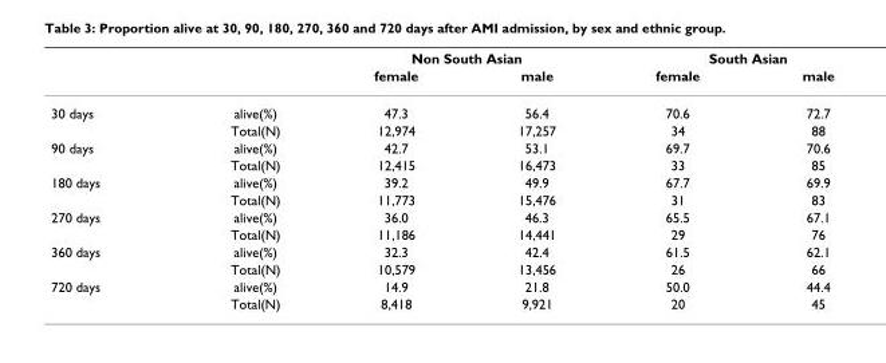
<table><thead><tr><td rowspan="2"></td><td rowspan="2"></td><td colspan="2">Non South Asian</td><td colspan="2">South Asian</td></tr><tr><td>female</td><td>male</td><td>female</td><td>male</td></tr></thead><tbody><tr><td rowspan="2">30 days</td><td>alive(%)</td><td>47.3</td><td>56.4</td><td>70.6</td><td>72.7</td></tr><tr><td>Total(N)</td><td>12,974</td><td>17,257</td><td>34</td><td>88</td></tr><tr><td rowspan="2">90 days</td><td>alive(%)</td><td>42.7</td><td>53.1</td><td>69.7</td><td>70.6</td></tr><tr><td>Total(N)</td><td>12,415</td><td>16,473</td><td>33</td><td>85</td></tr><tr><td rowspan="2">180 days</td><td>alive(%)</td><td>39.2</td><td>49.9</td><td>67.7</td><td>69.9</td></tr><tr><td>Total(N)</td><td>11,773</td><td>15,476</td><td>31</td><td>83</td></tr><tr><td rowspan="2">270 days</td><td>alive(%)</td><td>36.0</td><td>46.3</td><td>65.5</td><td>67.1</td></tr><tr><td>Total(N)</td><td>11,186</td><td>14,441</td><td>29</td><td>76</td></tr><tr><td rowspan="2">360 days</td><td>alive(%)</td><td>32.3</td><td>42.4</td><td>61.5</td><td>62.1</td></tr><tr><td>Total(N)</td><td>10,579</td><td>13,456</td><td>26</td><td>66</td></tr><tr><td rowspan="2">720 days</td><td>alive(%)</td><td>14.9</td><td>21.8</td><td>50.0</td><td>44.4</td></tr><tr><td>Total(N)</td><td>8,418</td><td>9,921</td><td>20</td><td>45</td></tr></tbody></table>